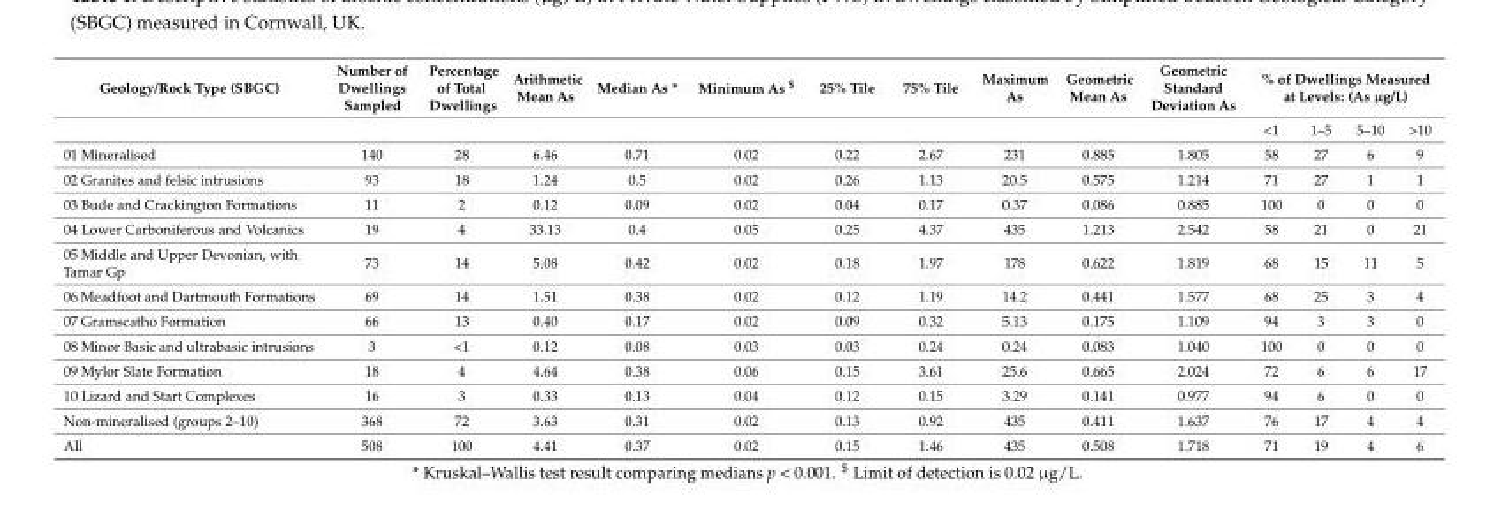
<table><thead><tr><td rowspan="2">Geology/Rock Type (SBGC)</td><td rowspan="2">Number of Dwellings Sampled</td><td rowspan="2">Percentage of Total Dwellings</td><td rowspan="2">Arithmetic Mean As</td><td rowspan="2">Median As *</td><td rowspan="2">Minimum As <sup>$</sup></td><td rowspan="2">25% Tile</td><td rowspan="2">75% Tile</td><td rowspan="2">Maximum As</td><td rowspan="2">Geometric Mean As</td><td rowspan="2">Geometric Standard Deviation As</td><td colspan="4">% of Dwellings Measured at Levels: (As µg/L)</td></tr><tr><td>&lt;1</td><td>1–5</td><td>5–10</td><td>&gt;10</td></tr></thead><tbody><tr><td>01 Mineralised</td><td>140</td><td>28</td><td>6.46</td><td>0.71</td><td>0.02</td><td>0.22</td><td>2.67</td><td>231</td><td>0.885</td><td>1.805</td><td>58</td><td>27</td><td>6</td><td>9</td></tr><tr><td>02 Granites and felsic intrusions</td><td>93</td><td>18</td><td>1.24</td><td>0.5</td><td>0.02</td><td>0.26</td><td>1.13</td><td>20.5</td><td>0.575</td><td>1.214</td><td>71</td><td>27</td><td>1</td><td>1</td></tr><tr><td>03 Bude and Crackington Formations</td><td>11</td><td>2</td><td>0.12</td><td>0.09</td><td>0.02</td><td>0.04</td><td>0.17</td><td>0.37</td><td>0.086</td><td>0.885</td><td>100</td><td>0</td><td>0</td><td>0</td></tr><tr><td>04 Lower Carboniferous and Volcanics</td><td>19</td><td>4</td><td>33.13</td><td>0.4</td><td>0.05</td><td>0.25</td><td>4.37</td><td>435</td><td>1.213</td><td>2.542</td><td>58</td><td>21</td><td>0</td><td>21</td></tr><tr><td>05 Middle and Upper Devonian, with Tamar Gp</td><td>73</td><td>14</td><td>5.08</td><td>0.42</td><td>0.02</td><td>0.18</td><td>1.97</td><td>178</td><td>0.622</td><td>1.819</td><td>68</td><td>15</td><td>11</td><td>5</td></tr><tr><td>06 Meadfoot and Dartmouth Formations</td><td>69</td><td>14</td><td>1.51</td><td>0.38</td><td>0.02</td><td>0.12</td><td>1.19</td><td>14.2</td><td>0.441</td><td>1.577</td><td>68</td><td>25</td><td>3</td><td>4</td></tr><tr><td>07 Gramscatho Formation</td><td>66</td><td>13</td><td>0.40</td><td>0.17</td><td>0.02</td><td>0.09</td><td>0.32</td><td>5.13</td><td>0.175</td><td>1.109</td><td>94</td><td>3</td><td>3</td><td>0</td></tr><tr><td>08 Minor Basic and ultrabasic intrusions</td><td>3</td><td>&lt;1</td><td>0.12</td><td>0.08</td><td>0.03</td><td>0.03</td><td>0.24</td><td>0.24</td><td>0.083</td><td>1.040</td><td>100</td><td>0</td><td>0</td><td>0</td></tr><tr><td>09 Mylor Slate Formation</td><td>18</td><td>4</td><td>4.64</td><td>0.38</td><td>0.06</td><td>0.15</td><td>3.61</td><td>25.6</td><td>0.665</td><td>2.024</td><td>72</td><td>6</td><td>6</td><td>17</td></tr><tr><td>10 Lizard and Start Complexes</td><td>16</td><td>3</td><td>0.33</td><td>0.13</td><td>0.04</td><td>0.12</td><td>0.15</td><td>3.29</td><td>0.141</td><td>0.977</td><td>94</td><td>6</td><td>0</td><td>0</td></tr><tr><td>Non-mineralised (groups 2–10)</td><td>368</td><td>72</td><td>3.63</td><td>0.31</td><td>0.02</td><td>0.13</td><td>0.92</td><td>435</td><td>0.411</td><td>1.637</td><td>76</td><td>17</td><td>4</td><td>4</td></tr><tr><td>All</td><td>508</td><td>100</td><td>4.41</td><td>0.37</td><td>0.02</td><td>0.15</td><td>1.46</td><td>435</td><td>0.508</td><td>1.718</td><td>71</td><td>19</td><td>4</td><td>6</td></tr></tbody></table>